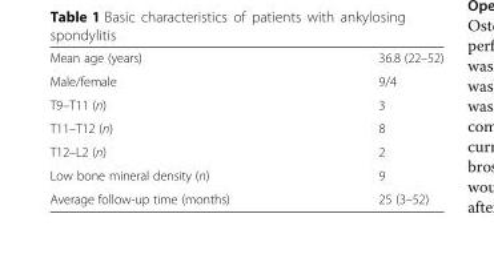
<table><tbody><tr><td>Mean age (years)</td><td>36.8 (22–52)</td></tr><tr><td>Male/female</td><td>9/4</td></tr><tr><td>T9–T11 (n)</td><td>3</td></tr><tr><td>T11–T12 (n)</td><td>8</td></tr><tr><td>T12–L2 (n)</td><td>2</td></tr><tr><td>Low bone mineral density (n)</td><td>9</td></tr><tr><td>Average follow-up time (months)</td><td>25 (3–52)</td></tr></tbody></table>